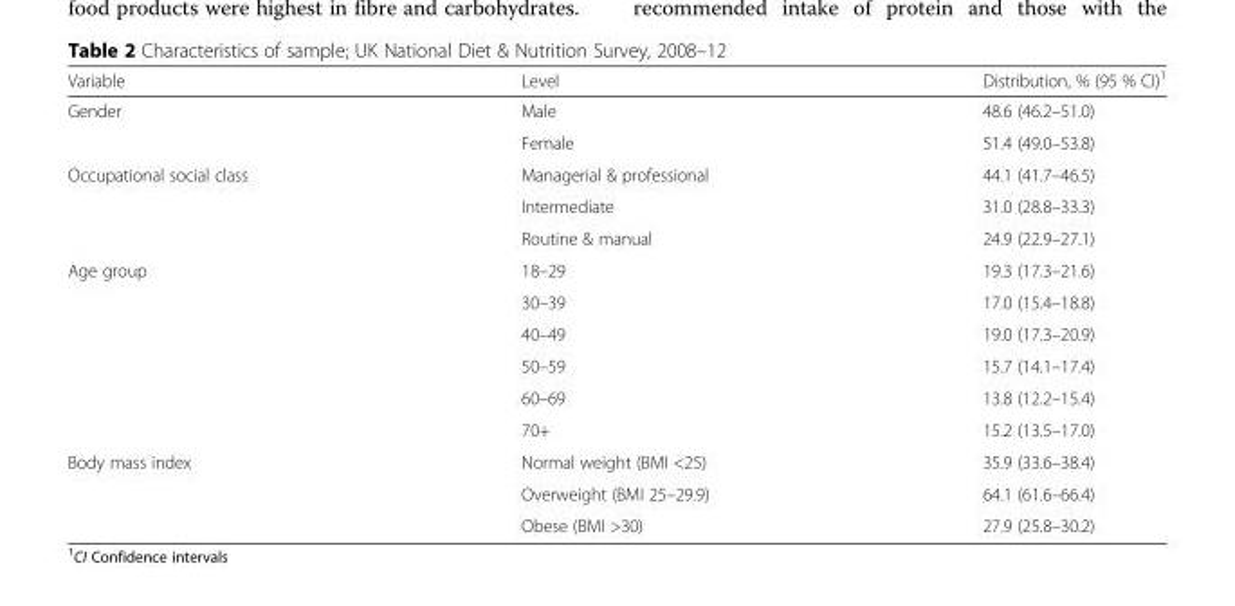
<table><thead><tr><td>Variable</td><td>Level</td><td>Distribution, % (95 % CI)<sup>1</sup></td></tr></thead><tbody><tr><td rowspan="2">Gender</td><td>Male</td><td>48.6 (46.2–51.0)</td></tr><tr><td>Female</td><td>51.4 (49.0–53.8)</td></tr><tr><td rowspan="3">Occupational social class</td><td>Managerial &amp; professional</td><td>44.1 (41.7–46.5)</td></tr><tr><td>Intermediate</td><td>31.0 (28.8–33.3)</td></tr><tr><td>Routine &amp; manual</td><td>24.9 (22.9–27.1)</td></tr><tr><td rowspan="6">Age group</td><td>18–29</td><td>19.3 (17.3–21.6)</td></tr><tr><td>30–39</td><td>17.0 (15.4–18.8)</td></tr><tr><td>40–49</td><td>19.0 (17.3–20.9)</td></tr><tr><td>50–59</td><td>15.7 (14.1–17.4)</td></tr><tr><td>60–69</td><td>13.8 (12.2–15.4)</td></tr><tr><td>70+</td><td>15.2 (13.5–17.0)</td></tr><tr><td rowspan="3">Body mass index</td><td>Normal weight (BMI &lt;25)</td><td>35.9 (33.6–38.4)</td></tr><tr><td>Overweight (BMI 25–29.9)</td><td>64.1 (61.6–66.4)</td></tr><tr><td>Obese (BMI &gt;30)</td><td>27.9 (25.8–30.2)</td></tr></tbody></table>